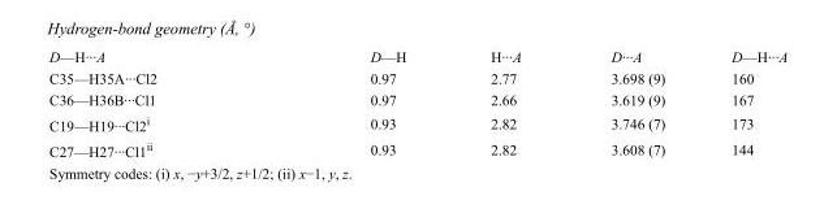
<table><tbody><tr><td>D—H···A</td><td>D—H</td><td>H···A</td><td>D···A</td><td>D—H···A</td></tr><tr><td>C35—H35A···Cl2</td><td>0.97</td><td>2.77</td><td>3.698 (9)</td><td>160</td></tr><tr><td>C36—H36B···Cl1</td><td>0.97</td><td>2.66</td><td>3.619 (9)</td><td>167</td></tr><tr><td>C19—H19···Cl2<sup>i</sup></td><td>0.93</td><td>2.82</td><td>3.746 (7)</td><td>173</td></tr><tr><td>C27—H27···Cl1<sup>ii</sup></td><td>0.93</td><td>2.82</td><td>3.608 (7)</td><td>144</td></tr></tbody></table>